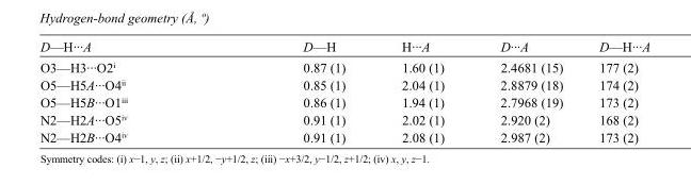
<table><tbody><tr><td>D—H···A</td><td>D—H</td><td>H···A</td><td>D···A</td><td>D—H···A</td></tr><tr><td>O3—H3···O2<sup>i</sup></td><td>0.87 (1)</td><td>1.60 (1)</td><td>2.4681 (15)</td><td>177 (2)</td></tr><tr><td>O5—H5A···O4<sup>ii</sup></td><td>0.85 (1)</td><td>2.04 (1)</td><td>2.8879 (18)</td><td>174 (2)</td></tr><tr><td>O5—H5B···O1<sup>iii</sup></td><td>0.86 (1)</td><td>1.94 (1)</td><td>2.7968 (19)</td><td>173 (2)</td></tr><tr><td>N2—H2A···O5<sup>iv</sup></td><td>0.91 (1)</td><td>2.02 (1)</td><td>2.920 (2)</td><td>168 (2)</td></tr><tr><td>N2—H2B···O4<sup>iv</sup></td><td>0.91 (1)</td><td>2.08 (1)</td><td>2.987 (2)</td><td>173 (2)</td></tr></tbody></table>